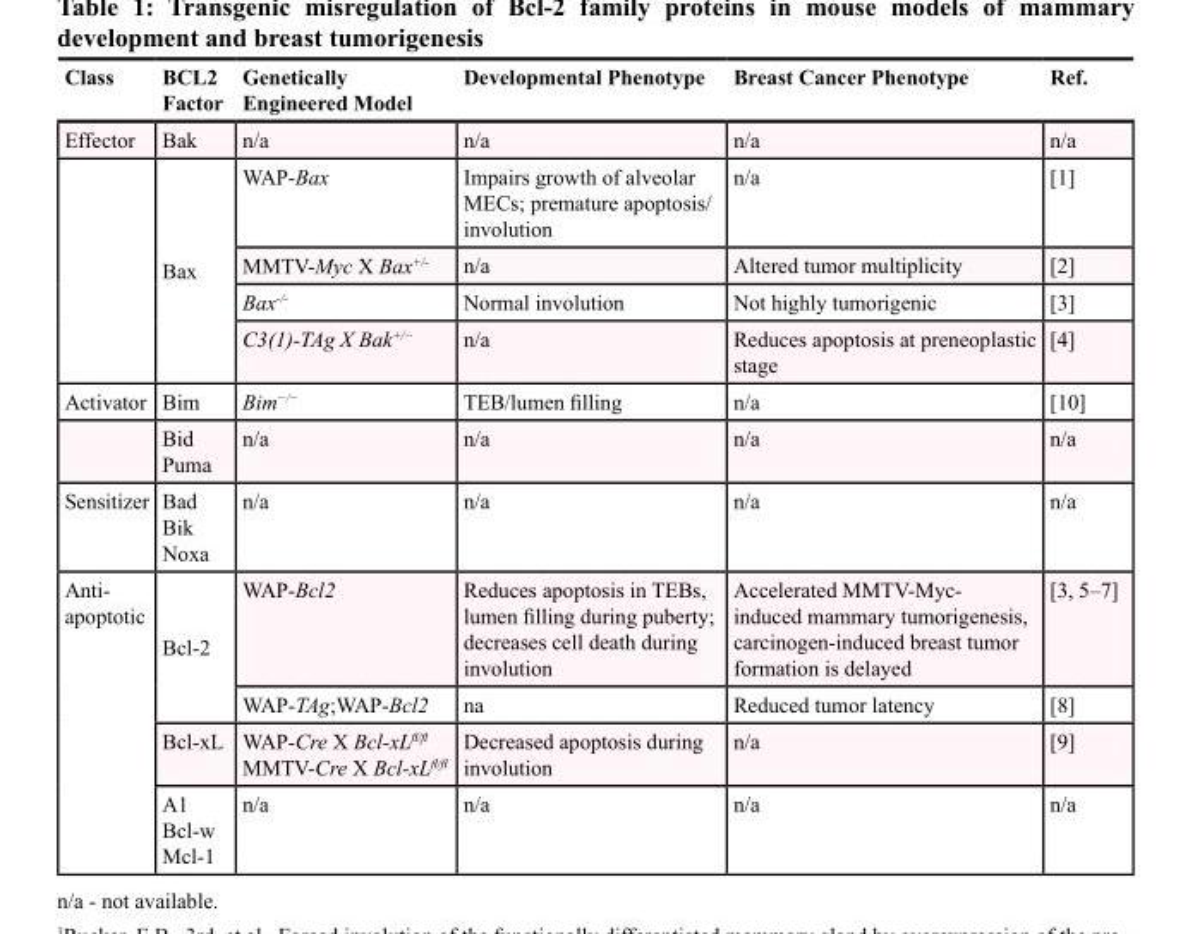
<table><thead><tr><td>Class</td><td>BCL2 Factor</td><td>Genetically Engineered Model</td><td>Developmental Phenotype</td><td>Breast Cancer Phenotype</td><td>Ref.</td></tr></thead><tbody><tr><td rowspan="5">Effector</td><td>Bak</td><td>n/a</td><td>n/a</td><td>n/a</td><td>n/a</td></tr><tr><td rowspan="4">Bax</td><td>WAP-Bax</td><td>Impairs growth of alveolar MECs; premature apoptosis/ involution</td><td>n/a</td><td>[1]</td></tr><tr><td>MMTV-Myc X Bax+/-</td><td>n/a</td><td>Altered tumor multiplicity</td><td>[2]</td></tr><tr><td>Bax-/-</td><td>Normal involution</td><td>Not highly tumorigenic</td><td>[3]</td></tr><tr><td>C3(1)-TAg X Bak+/−</td><td>n/a</td><td>Reduces apoptosis at preneoplastic stage</td><td>[4]</td></tr><tr><td rowspan="2">Activator</td><td>Bim</td><td>Bim−/−</td><td>TEB/lumen filling</td><td>n/a</td><td>[10]</td></tr><tr><td>Bid Puma</td><td>n/a</td><td>n/a</td><td>n/a</td><td>n/a</td></tr><tr><td>Sensitizer</td><td>Bad Bik Noxa</td><td>n/a</td><td>n/a</td><td>n/a</td><td>n/a</td></tr><tr><td rowspan="4">Anti- apoptotic</td><td rowspan="2">Bcl-2</td><td>WAP-Bcl2</td><td>Reduces apoptosis in TEBs, lumen filling during puberty; decreases cell death during involution</td><td>Accelerated MMTV-Myc- induced mammary tumorigenesis, carcinogen-induced breast tumor formation is delayed</td><td>[3, 5–7]</td></tr><tr><td>WAP-TAg;WAP-Bcl2</td><td>na</td><td>Reduced tumor latency</td><td>[8]</td></tr><tr><td>Bcl-xL</td><td>WAP-Cre X Bcl-xL<sup>fl/fl</sup> MMTV-Cre X Bcl-xL<sup>fl/fl</sup></td><td>Decreased apoptosis during involution</td><td>n/a</td><td>[9]</td></tr><tr><td>A1 Bcl-w Mcl-1</td><td>n/a</td><td>n/a</td><td>n/a</td><td>n/a</td></tr></tbody></table>